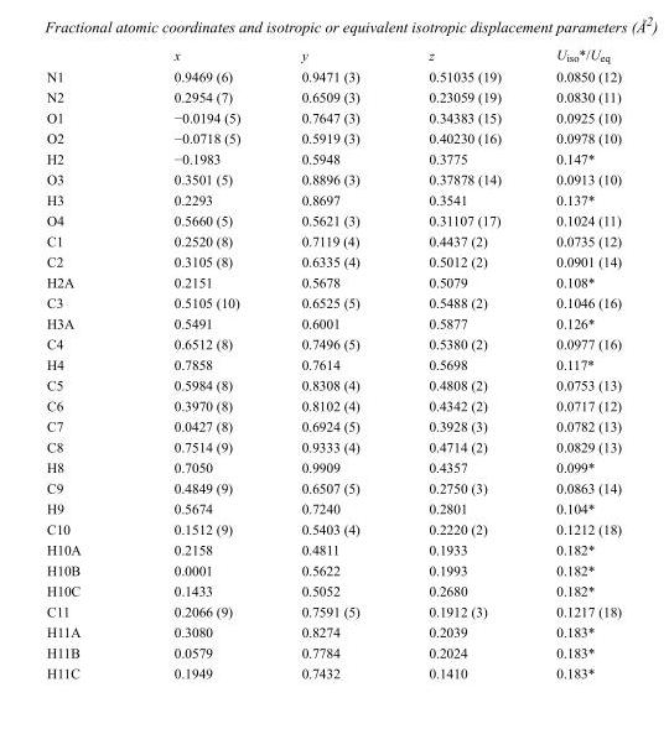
<table><thead><tr><td></td><td>x</td><td>y</td><td>z</td><td>U<sub>iso</sub>*/U<sub>eq</sub></td></tr></thead><tbody><tr><td>N1</td><td>0.9469 (6)</td><td>0.9471 (3)</td><td>0.51035 (19)</td><td>0.0850 (12)</td></tr><tr><td>N2</td><td>0.2954 (7)</td><td>0.6509 (3)</td><td>0.23059 (19)</td><td>0.0830 (11)</td></tr><tr><td>O1</td><td>−0.0194 (5)</td><td>0.7647 (3)</td><td>0.34383 (15)</td><td>0.0925 (10)</td></tr><tr><td>O2</td><td>−0.0718 (5)</td><td>0.5919 (3)</td><td>0.40230 (16)</td><td>0.0978 (10)</td></tr><tr><td>H2</td><td>−0.1983</td><td>0.5948</td><td>0.3775</td><td>0.147*</td></tr><tr><td>O3</td><td>0.3501 (5)</td><td>0.8896 (3)</td><td>0.37878 (14)</td><td>0.0913 (10)</td></tr><tr><td>H3</td><td>0.2293</td><td>0.8697</td><td>0.3541</td><td>0.137*</td></tr><tr><td>O4</td><td>0.5660 (5)</td><td>0.5621 (3)</td><td>0.31107 (17)</td><td>0.1024 (11)</td></tr><tr><td>C1</td><td>0.2520 (8)</td><td>0.7119 (4)</td><td>0.4437 (2)</td><td>0.0735 (12)</td></tr><tr><td>C2</td><td>0.3105 (8)</td><td>0.6335 (4)</td><td>0.5012 (2)</td><td>0.0901 (14)</td></tr><tr><td>H2A</td><td>0.2151</td><td>0.5678</td><td>0.5079</td><td>0.108*</td></tr><tr><td>C3</td><td>0.5105 (10)</td><td>0.6525 (5)</td><td>0.5488 (2)</td><td>0.1046 (16)</td></tr><tr><td>H3A</td><td>0.5491</td><td>0.6001</td><td>0.5877</td><td>0.126*</td></tr><tr><td>C4</td><td>0.6512 (8)</td><td>0.7496 (5)</td><td>0.5380 (2)</td><td>0.0977 (16)</td></tr><tr><td>H4</td><td>0.7858</td><td>0.7614</td><td>0.5698</td><td>0.117*</td></tr><tr><td>C5</td><td>0.5984 (8)</td><td>0.8308 (4)</td><td>0.4808 (2)</td><td>0.0753 (13)</td></tr><tr><td>C6</td><td>0.3970 (8)</td><td>0.8102 (4)</td><td>0.4342 (2)</td><td>0.0717 (12)</td></tr><tr><td>C7</td><td>0.0427 (8)</td><td>0.6924 (5)</td><td>0.3928 (3)</td><td>0.0782 (13)</td></tr><tr><td>C8</td><td>0.7514 (9)</td><td>0.9333 (4)</td><td>0.4714 (2)</td><td>0.0829 (13)</td></tr><tr><td>H8</td><td>0.7050</td><td>0.9909</td><td>0.4357</td><td>0.099*</td></tr><tr><td>C9</td><td>0.4849 (9)</td><td>0.6507 (5)</td><td>0.2750 (3)</td><td>0.0863 (14)</td></tr><tr><td>H9</td><td>0.5674</td><td>0.7240</td><td>0.2801</td><td>0.104*</td></tr><tr><td>C10</td><td>0.1512 (9)</td><td>0.5403 (4)</td><td>0.2220 (2)</td><td>0.1212 (18)</td></tr><tr><td>H10A</td><td>0.2158</td><td>0.4811</td><td>0.1933</td><td>0.182*</td></tr><tr><td>H10B</td><td>0.0001</td><td>0.5622</td><td>0.1993</td><td>0.182*</td></tr><tr><td>H10C</td><td>0.1433</td><td>0.5052</td><td>0.2680</td><td>0.182*</td></tr><tr><td>C11</td><td>0.2066 (9)</td><td>0.7591 (5)</td><td>0.1912 (3)</td><td>0.1217 (18)</td></tr><tr><td>H11A</td><td>0.3080</td><td>0.8274</td><td>0.2039</td><td>0.183*</td></tr><tr><td>H11B</td><td>0.0579</td><td>0.7784</td><td>0.2024</td><td>0.183*</td></tr><tr><td>H11C</td><td>0.1949</td><td>0.7432</td><td>0.1410</td><td>0.183*</td></tr></tbody></table>